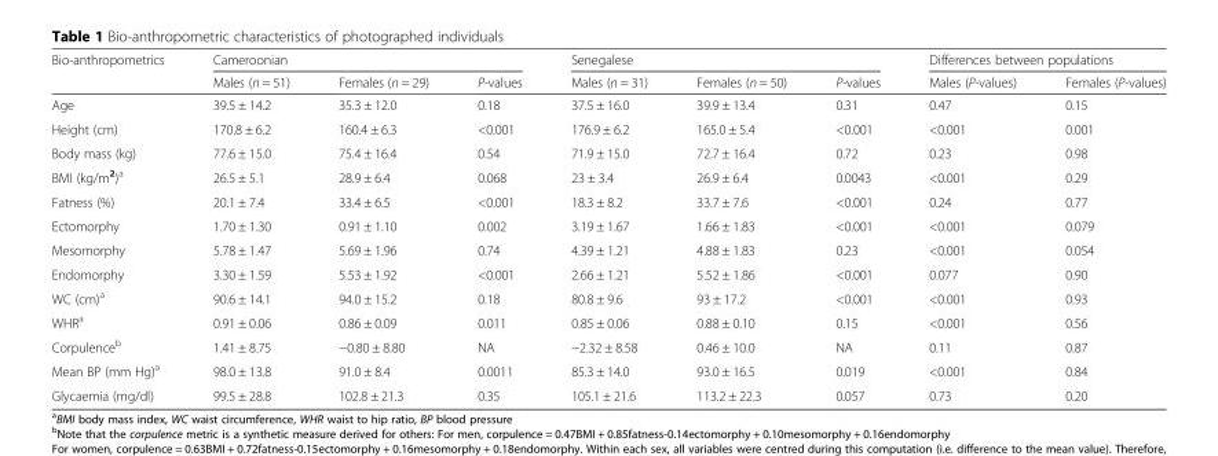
<table><thead><tr><td rowspan="2">Bio-anthropometrics</td><td colspan="3">Cameroonian</td><td colspan="3">Senegalese</td><td colspan="2">Differences between populations</td></tr><tr><td>Males (n = 51)</td><td>Females (n = 29)</td><td>P-values</td><td>Males (n = 31)</td><td>Females (n = 50)</td><td>P-values</td><td>Males (P-values)</td><td>Females (P-values)</td></tr></thead><tbody><tr><td>Age</td><td>39.5 ± 14.2</td><td>35.3 ± 12.0</td><td>0.18</td><td>37.5 ± 16.0</td><td>39.9 ± 13.4</td><td>0.31</td><td>0.47</td><td>0.15</td></tr><tr><td>Height (cm)</td><td>170.8 ± 6.2</td><td>160.4 ± 6.3</td><td>&lt;0.001</td><td>176.9 ± 6.2</td><td>165.0 ± 5.4</td><td>&lt;0.001</td><td>&lt;0.001</td><td>0.001</td></tr><tr><td>Body mass (kg)</td><td>77.6 ± 15.0</td><td>75.4 ± 16.4</td><td>0.54</td><td>71.9 ± 15.0</td><td>72.7 ± 16.4</td><td>0.72</td><td>0.23</td><td>0.98</td></tr><tr><td>BMI (kg/m<sup>2</sup>)<sup>a</sup></td><td>26.5 ± 5.1</td><td>28.9 ± 6.4</td><td>0.068</td><td>23 ± 3.4</td><td>26.9 ± 6.4</td><td>0.0043</td><td>&lt;0.001</td><td>0.29</td></tr><tr><td>Fatness (%)</td><td>20.1 ± 7.4</td><td>33.4 ± 6.5</td><td>&lt;0.001</td><td>18.3 ± 8.2</td><td>33.7 ± 7.6</td><td>&lt;0.001</td><td>0.24</td><td>0.77</td></tr><tr><td>Ectomorphy</td><td>1.70 ± 1.30</td><td>0.91 ± 1.10</td><td>0.002</td><td>3.19 ± 1.67</td><td>1.66 ± 1.83</td><td>&lt;0.001</td><td>&lt;0.001</td><td>0.079</td></tr><tr><td>Mesomorphy</td><td>5.78 ± 1.47</td><td>5.69 ± 1.96</td><td>0.74</td><td>4.39 ± 1.21</td><td>4.88 ± 1.83</td><td>0.23</td><td>&lt;0.001</td><td>0.054</td></tr><tr><td>Endomorphy</td><td>3.30 ± 1.59</td><td>5.53 ± 1.92</td><td>&lt;0.001</td><td>2.66 ± 1.21</td><td>5.52 ± 1.86</td><td>&lt;0.001</td><td>0.077</td><td>0.90</td></tr><tr><td>WC (cm)<sup>a</sup></td><td>90.6 ± 14.1</td><td>94.0 ± 15.2</td><td>0.18</td><td>80.8 ± 9.6</td><td>93 ± 17.2</td><td>&lt;0.001</td><td>&lt;0.001</td><td>0.93</td></tr><tr><td>WHR<sup>a</sup></td><td>0.91 ± 0.06</td><td>0.86 ± 0.09</td><td>0.011</td><td>0.85 ± 0.06</td><td>0.88 ± 0.10</td><td>0.15</td><td>&lt;0.001</td><td>0.56</td></tr><tr><td>Corpulence<sup>b</sup></td><td>1.41 ± 8.75</td><td>−0.80 ± 8.80</td><td>NA</td><td>−2.32 ± 8.58</td><td>0.46 ± 10.0</td><td>NA</td><td>0.11</td><td>0.87</td></tr><tr><td>Mean BP (mm Hg)<sup>a</sup></td><td>98.0 ± 13.8</td><td>91.0 ± 8.4</td><td>0.0011</td><td>85.3 ± 14.0</td><td>93.0 ± 16.5</td><td>0.019</td><td>&lt;0.001</td><td>0.84</td></tr><tr><td>Glycaemia (mg/dl)</td><td>99.5 ± 28.8</td><td>102.8 ± 21.3</td><td>0.35</td><td>105.1 ± 21.6</td><td>113.2 ± 22.3</td><td>0.057</td><td>0.73</td><td>0.20</td></tr></tbody></table>